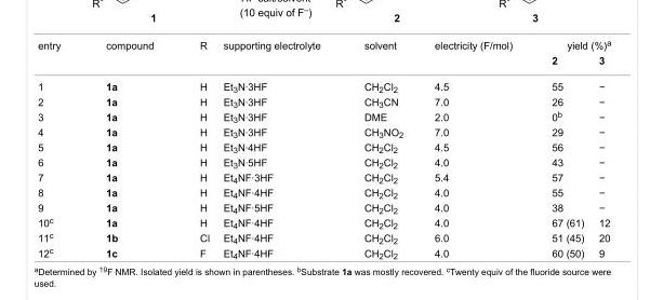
<table><tbody><tr><td rowspan="2">entry</td><td rowspan="2">compound</td><td rowspan="2">R</td><td rowspan="2">supporting electrolyte</td><td rowspan="2">solvent</td><td rowspan="2">electricity (F/mol)</td><td colspan="2">yield (%)<sup>a</sup></td></tr><tr><td>2</td><td>3</td></tr><tr><td>1</td><td>1a</td><td>H</td><td>Et<sub>3</sub>N·3HF</td><td>CH<sub>2</sub>Cl<sub>2</sub></td><td>4.5</td><td>55</td><td>−</td></tr><tr><td>2</td><td>1a</td><td>H</td><td>Et<sub>3</sub>N·3HF</td><td>CH<sub>3</sub>CN</td><td>7.0</td><td>26</td><td>−</td></tr><tr><td>3</td><td>1a</td><td>H</td><td>Et<sub>3</sub>N·3HF</td><td>DME</td><td>2.0</td><td>0<sup>b</sup></td><td>−</td></tr><tr><td>4</td><td>1a</td><td>H</td><td>Et<sub>3</sub>N·3HF</td><td>CH<sub>3</sub>NO<sub>2</sub></td><td>7.0</td><td>29</td><td>−</td></tr><tr><td>5</td><td>1a</td><td>H</td><td>Et<sub>3</sub>N·4HF</td><td>CH<sub>2</sub>Cl<sub>2</sub></td><td>4.5</td><td>56</td><td>−</td></tr><tr><td>6</td><td>1a</td><td>H</td><td>Et<sub>3</sub>N·5HF</td><td>CH<sub>2</sub>Cl<sub>2</sub></td><td>4.0</td><td>43</td><td>−</td></tr><tr><td>7</td><td>1a</td><td>H</td><td>Et<sub>4</sub>NF·3HF</td><td>CH<sub>2</sub>Cl<sub>2</sub></td><td>5.4</td><td>57</td><td>−</td></tr><tr><td>8</td><td>1a</td><td>H</td><td>Et<sub>4</sub>NF·4HF</td><td>CH<sub>2</sub>Cl<sub>2</sub></td><td>4.0</td><td>55</td><td>−</td></tr><tr><td>9</td><td>1a</td><td>H</td><td>Et<sub>4</sub>NF·5HF</td><td>CH<sub>2</sub>Cl<sub>2</sub></td><td>4.0</td><td>38</td><td>−</td></tr><tr><td>10<sup>c</sup></td><td>1a</td><td>H</td><td>Et<sub>4</sub>NF·4HF</td><td>CH<sub>2</sub>Cl<sub>2</sub></td><td>4.0</td><td>67 (61)</td><td>12</td></tr><tr><td>11<sup>c</sup></td><td>1b</td><td>Cl</td><td>Et<sub>4</sub>NF·4HF</td><td>CH<sub>2</sub>Cl<sub>2</sub></td><td>6.0</td><td>51 (45)</td><td>20</td></tr><tr><td>12<sup>c</sup></td><td>1c</td><td>F</td><td>Et<sub>4</sub>NF·4HF</td><td>CH<sub>2</sub>Cl<sub>2</sub></td><td>4.0</td><td>60 (50)</td><td>9</td></tr></tbody></table>